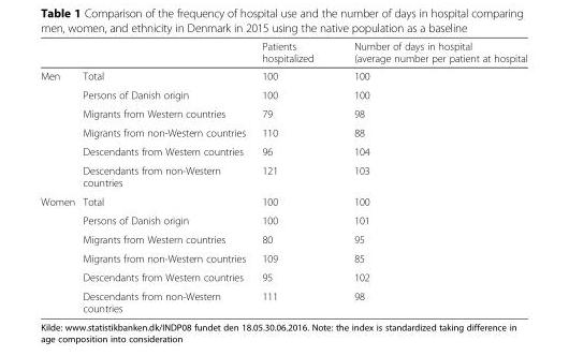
<table><thead><tr><td></td><td></td><td>Patients hospitalized</td><td>Number of days in hospital (average number per patient at hospital</td></tr></thead><tbody><tr><td rowspan="6">Men</td><td>Total</td><td>100</td><td>100</td></tr><tr><td>Persons of Danish origin</td><td>100</td><td>100</td></tr><tr><td>Migrants from Western countries</td><td>79</td><td>98</td></tr><tr><td>Migrants from non-Western countries</td><td>110</td><td>88</td></tr><tr><td>Descendants from Western countries</td><td>96</td><td>104</td></tr><tr><td>Descendants from non-Western countries</td><td>121</td><td>103</td></tr><tr><td rowspan="6">Women</td><td>Total</td><td>100</td><td>100</td></tr><tr><td>Persons of Danish origin</td><td>100</td><td>101</td></tr><tr><td>Migrants from Western countries</td><td>80</td><td>95</td></tr><tr><td>Migrants from non-Western countries</td><td>109</td><td>85</td></tr><tr><td>Descendants from Western countries</td><td>95</td><td>102</td></tr><tr><td>Descendants from non-Western countries</td><td>111</td><td>98</td></tr></tbody></table>